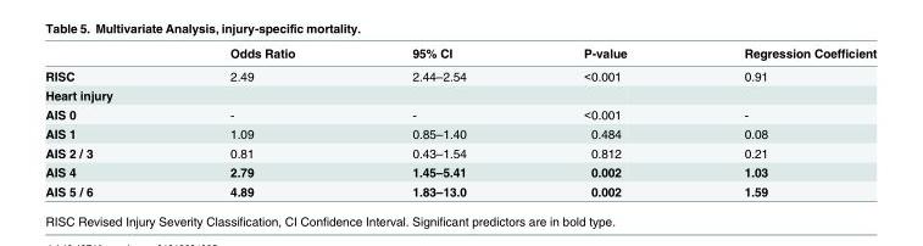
<table><thead><tr><td></td><td>Odds Ratio</td><td>95% CI</td><td>P-value</td><td>Regression Coefficient</td></tr></thead><tbody><tr><td>RISC</td><td>2.49</td><td>2.44–2.54</td><td>&lt;0.001</td><td>0.91</td></tr><tr><td colspan="5">Heart injury</td></tr><tr><td>AIS 0</td><td>-</td><td>-</td><td>&lt;0.001</td><td>-</td></tr><tr><td>AIS 1</td><td>1.09</td><td>0.85–1.40</td><td>0.484</td><td>0.08</td></tr><tr><td>AIS 2 / 3</td><td>0.81</td><td>0.43–1.54</td><td>0.812</td><td>0.21</td></tr><tr><td>AIS 4</td><td>2.79</td><td>1.45–5.41</td><td>0.002</td><td>1.03</td></tr><tr><td>AIS 5 / 6</td><td>4.89</td><td>1.83–13.0</td><td>0.002</td><td>1.59</td></tr></tbody></table>